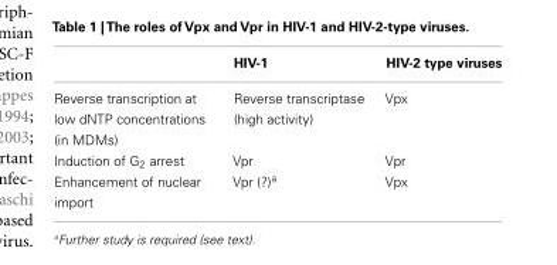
<table><thead><tr><td></td><td>HIV-1</td><td>HIV-2 type viruses</td></tr></thead><tbody><tr><td>Reverse transcription at low dNTP concentrations (in MDMs)</td><td>Reverse transcriptase (high activity)</td><td>Vpx</td></tr><tr><td>Induction of G<sub>2</sub> arrest</td><td>Vpr</td><td>Vpr</td></tr><tr><td>Enhancement of nuclear import</td><td>Vpr (?)<sup>a</sup></td><td>Vpx</td></tr></tbody></table>